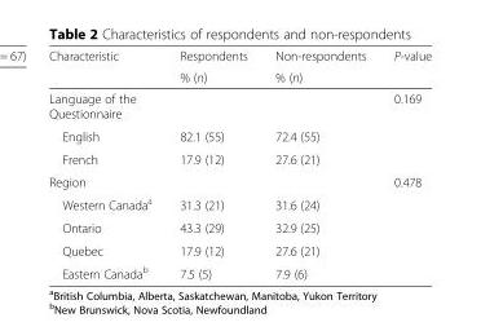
<table><thead><tr><td rowspan="2">Characteristic</td><td rowspan="2">Respondents % (n)</td><td rowspan="2">Non-respondents % (n)</td><td rowspan="2">P-value</td></tr><tr></tr></thead><tbody><tr><td>Language of the Questionnaire</td><td></td><td></td><td>0.169</td></tr><tr><td>English</td><td>82.1 (55)</td><td>72.4 (55)</td><td></td></tr><tr><td>French</td><td>17.9 (12)</td><td>27.6 (21)</td><td></td></tr><tr><td>Region</td><td></td><td></td><td>0.478</td></tr><tr><td>Western Canada<sup>a</sup></td><td>31.3 (21)</td><td>31.6 (24)</td><td></td></tr><tr><td>Ontario</td><td>43.3 (29)</td><td>32.9 (25)</td><td></td></tr><tr><td>Quebec</td><td>17.9 (12)</td><td>27.6 (21)</td><td></td></tr><tr><td>Eastern Canada<sup>b</sup></td><td>7.5 (5)</td><td>7.9 (6)</td><td></td></tr></tbody></table>